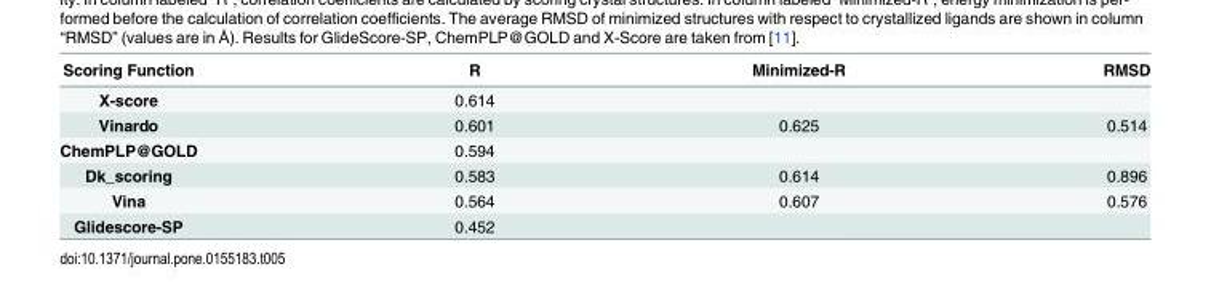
<table><thead><tr><td>Scoring Function</td><td>R</td><td>Minimized-R</td><td>RMSD</td></tr></thead><tbody><tr><td>X-score</td><td>0.614</td><td></td><td></td></tr><tr><td>Vinardo</td><td>0.601</td><td>0.625</td><td>0.514</td></tr><tr><td>ChemPLP@GOLD</td><td>0.594</td><td></td><td></td></tr><tr><td>Dk_scoring</td><td>0.583</td><td>0.614</td><td>0.896</td></tr><tr><td>Vina</td><td>0.564</td><td>0.607</td><td>0.576</td></tr><tr><td>Glidescore-SP</td><td>0.452</td><td></td><td></td></tr></tbody></table>